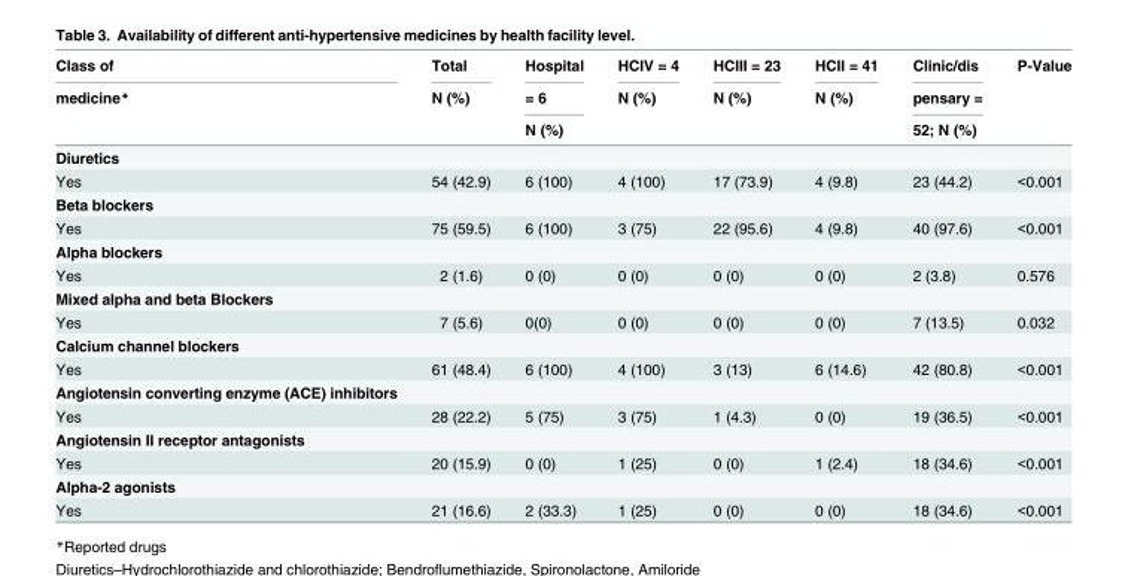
<table><thead><tr><td rowspan="3">Class of medicine*</td><td rowspan="3">Total N (%)</td><td rowspan="3">Hospital = 6 N (%)</td><td rowspan="3">HCIV = 4 N (%)</td><td rowspan="3">HCIII = 23 N (%)</td><td rowspan="3">HCII = 41 N (%)</td><td rowspan="3">Clinic/dis pensary = 52; N (%)</td><td rowspan="3">P-Value</td></tr><tr></tr><tr></tr></thead><tbody><tr><td colspan="8">Diuretics</td></tr><tr><td>Yes</td><td>54 (42.9)</td><td>6 (100)</td><td>4 (100)</td><td>17 (73.9)</td><td>4 (9.8)</td><td>23 (44.2)</td><td>&lt;0.001</td></tr><tr><td colspan="8">Beta blockers</td></tr><tr><td>Yes</td><td>75 (59.5)</td><td>6 (100)</td><td>3 (75)</td><td>22 (95.6)</td><td>4 (9.8)</td><td>40 (97.6)</td><td>&lt;0.001</td></tr><tr><td colspan="8">Alpha blockers</td></tr><tr><td>Yes</td><td>2 (1.6)</td><td>0 (0)</td><td>0 (0)</td><td>0 (0)</td><td>0 (0)</td><td>2 (3.8)</td><td>0.576</td></tr><tr><td colspan="8">Mixed alpha and beta Blockers</td></tr><tr><td>Yes</td><td>7 (5.6)</td><td>0(0)</td><td>0 (0)</td><td>0 (0)</td><td>0 (0)</td><td>7 (13.5)</td><td>0.032</td></tr><tr><td colspan="8">Calcium channel blockers</td></tr><tr><td>Yes</td><td>61 (48.4)</td><td>6 (100)</td><td>4 (100)</td><td>3 (13)</td><td>6 (14.6)</td><td>42 (80.8)</td><td>&lt;0.001</td></tr><tr><td colspan="8">Angiotensin converting enzyme (ACE) inhibitors</td></tr><tr><td>Yes</td><td>28 (22.2)</td><td>5 (75)</td><td>3 (75)</td><td>1 (4.3)</td><td>0 (0)</td><td>19 (36.5)</td><td>&lt;0.001</td></tr><tr><td colspan="8">Angiotensin II receptor antagonists</td></tr><tr><td>Yes</td><td>20 (15.9)</td><td>0 (0)</td><td>1 (25)</td><td>0 (0)</td><td>1 (2.4)</td><td>18 (34.6)</td><td>&lt;0.001</td></tr><tr><td colspan="8">Alpha-2 agonists</td></tr><tr><td>Yes</td><td>21 (16.6)</td><td>2 (33.3)</td><td>1 (25)</td><td>0 (0)</td><td>0 (0)</td><td>18 (34.6)</td><td>&lt;0.001</td></tr></tbody></table>